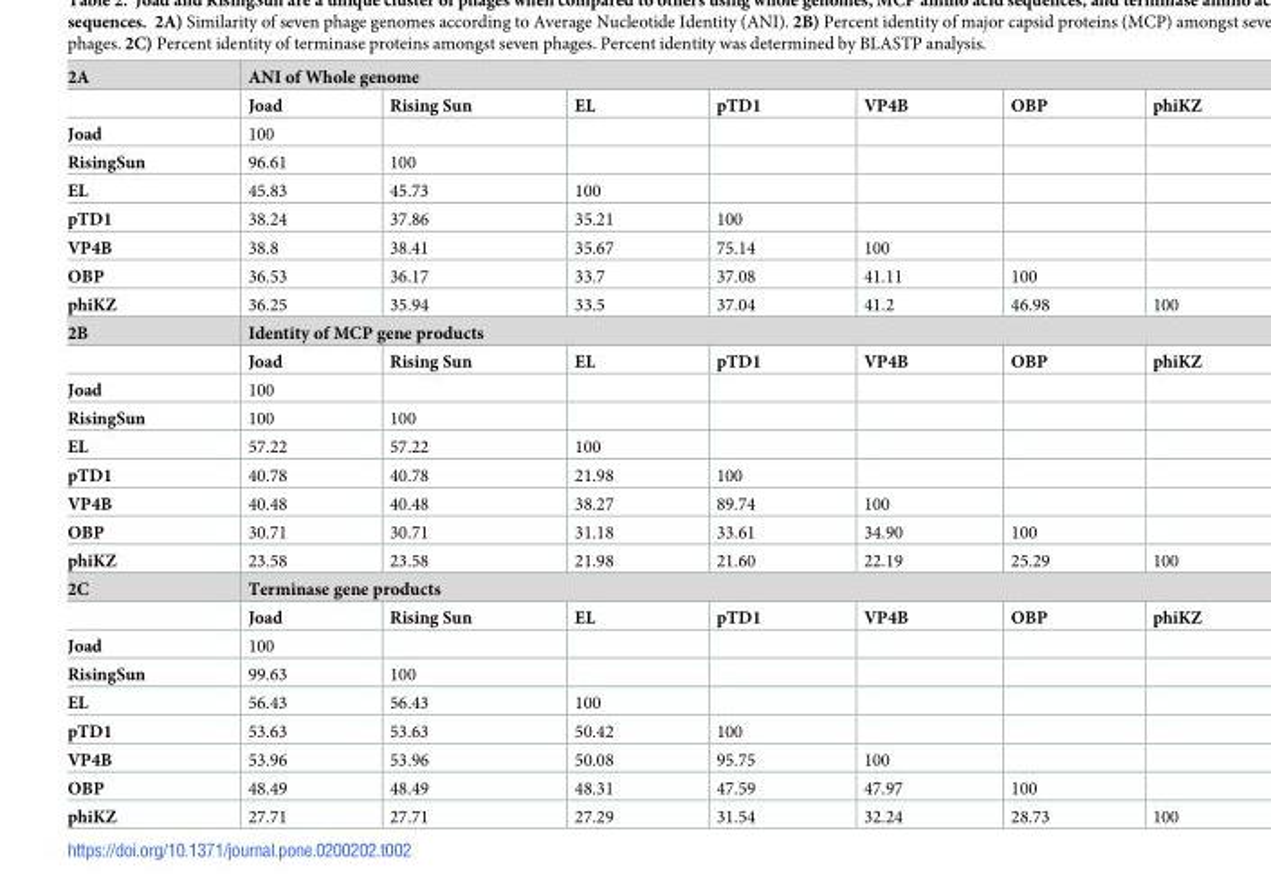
<table><tbody><tr><td rowspan="2">2A</td><td colspan="7">ANI of Whole genome</td></tr><tr><td>Joad</td><td>Rising Sun</td><td>EL</td><td>pTD1</td><td>VP4B</td><td>OBP</td><td>phiKZ</td></tr><tr><td>Joad</td><td>100</td><td></td><td></td><td></td><td></td><td></td><td></td></tr><tr><td>RisingSun</td><td>96.61</td><td>100</td><td></td><td></td><td></td><td></td><td></td></tr><tr><td>EL</td><td>45.83</td><td>45.73</td><td>100</td><td></td><td></td><td></td><td></td></tr><tr><td>pTD1</td><td>38.24</td><td>37.86</td><td>35.21</td><td>100</td><td></td><td></td><td></td></tr><tr><td>VP4B</td><td>38.8</td><td>38.41</td><td>35.67</td><td>75.14</td><td>100</td><td></td><td></td></tr><tr><td>OBP</td><td>36.53</td><td>36.17</td><td>33.7</td><td>37.08</td><td>41.11</td><td>100</td><td></td></tr><tr><td>phiKZ</td><td>36.25</td><td>35.94</td><td>33.5</td><td>37.04</td><td>41.2</td><td>46.98</td><td>100</td></tr><tr><td rowspan="2">2B</td><td colspan="7">Identity of MCP gene products</td></tr><tr><td>Joad</td><td>Rising Sun</td><td>EL</td><td>pTD1</td><td>VP4B</td><td>OBP</td><td>phiKZ</td></tr><tr><td>Joad</td><td>100</td><td></td><td></td><td></td><td></td><td></td><td></td></tr><tr><td>RisingSun</td><td>100</td><td>100</td><td></td><td></td><td></td><td></td><td></td></tr><tr><td>EL</td><td>57.22</td><td>57.22</td><td>100</td><td></td><td></td><td></td><td></td></tr><tr><td>pTD1</td><td>40.78</td><td>40.78</td><td>21.98</td><td>100</td><td></td><td></td><td></td></tr><tr><td>VP4B</td><td>40.48</td><td>40.48</td><td>38.27</td><td>89.74</td><td>100</td><td></td><td></td></tr><tr><td>OBP</td><td>30.71</td><td>30.71</td><td>31.18</td><td>33.61</td><td>34.90</td><td>100</td><td></td></tr><tr><td>phiKZ</td><td>23.58</td><td>23.58</td><td>21.98</td><td>21.60</td><td>22.19</td><td>25.29</td><td>100</td></tr><tr><td rowspan="2">2C</td><td colspan="7">Terminase gene products</td></tr><tr><td>Joad</td><td>Rising Sun</td><td>EL</td><td>pTD1</td><td>VP4B</td><td>OBP</td><td>phiKZ</td></tr><tr><td>Joad</td><td>100</td><td></td><td></td><td></td><td></td><td></td><td></td></tr><tr><td>RisingSun</td><td>99.63</td><td>100</td><td></td><td></td><td></td><td></td><td></td></tr><tr><td>EL</td><td>56.43</td><td>56.43</td><td>100</td><td></td><td></td><td></td><td></td></tr><tr><td>pTD1</td><td>53.63</td><td>53.63</td><td>50.42</td><td>100</td><td></td><td></td><td></td></tr><tr><td>VP4B</td><td>53.96</td><td>53.96</td><td>50.08</td><td>95.75</td><td>100</td><td></td><td></td></tr><tr><td>OBP</td><td>48.49</td><td>48.49</td><td>48.31</td><td>47.59</td><td>47.97</td><td>100</td><td></td></tr><tr><td>phiKZ</td><td>27.71</td><td>27.71</td><td>27.29</td><td>31.54</td><td>32.24</td><td>28.73</td><td>100</td></tr></tbody></table>